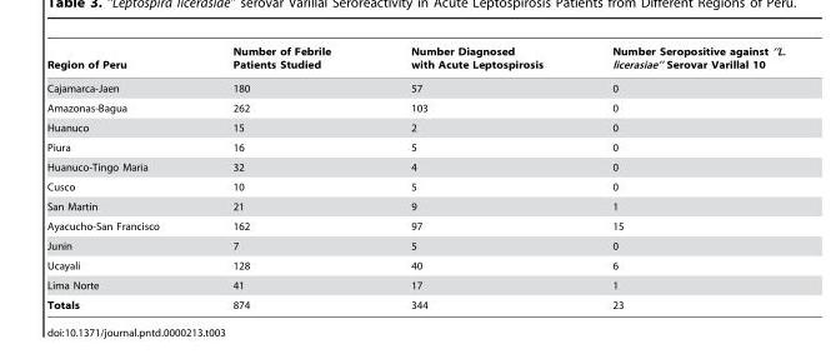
<table><thead><tr><td>Region of Peru</td><td>Number of Febrile Patients Studied</td><td>Number Diagnosed with Acute Leptospirosis</td><td>Number Seropositive against ‘‘L. licerasiae’’ Serovar Varillal 10</td></tr></thead><tbody><tr><td>Cajamarca-Jaen</td><td>180</td><td>57</td><td>0</td></tr><tr><td>Amazonas-Bagua</td><td>262</td><td>103</td><td>0</td></tr><tr><td>Huanuco</td><td>15</td><td>2</td><td>0</td></tr><tr><td>Piura</td><td>16</td><td>5</td><td>0</td></tr><tr><td>Huanuco-Tingo Maria</td><td>32</td><td>4</td><td>0</td></tr><tr><td>Cusco</td><td>10</td><td>5</td><td>0</td></tr><tr><td>San Martin</td><td>21</td><td>9</td><td>1</td></tr><tr><td>Ayacucho-San Francisco</td><td>162</td><td>97</td><td>15</td></tr><tr><td>Junin</td><td>7</td><td>5</td><td>0</td></tr><tr><td>Ucayali</td><td>128</td><td>40</td><td>6</td></tr><tr><td>Lima Norte</td><td>41</td><td>17</td><td>1</td></tr><tr><td>Totals</td><td>874</td><td>344</td><td>23</td></tr></tbody></table>